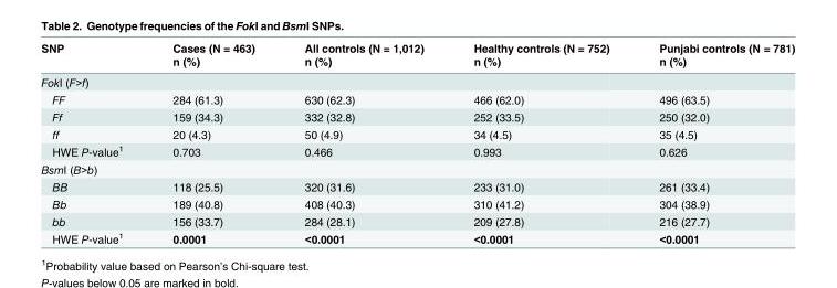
<table><thead><tr><td rowspan="2">SNP</td><td rowspan="2">Cases (N = 463) n (%)</td><td rowspan="2">All controls (N = 1,012) n (%)</td><td rowspan="2">Healthy controls (N = 752) n (%)</td><td rowspan="2">Punjabi controls (N = 781) n (%)</td></tr><tr></tr></thead><tbody><tr><td colspan="5">FokI (F&gt;f)</td></tr><tr><td>FF</td><td>284 (61.3)</td><td>630 (62.3)</td><td>466 (62.0)</td><td>496 (63.5)</td></tr><tr><td>Ff</td><td>159 (34.3)</td><td>332 (32.8)</td><td>252 (33.5)</td><td>250 (32.0)</td></tr><tr><td>ff</td><td>20 (4.3)</td><td>50 (4.9)</td><td>34 (4.5)</td><td>35 (4.5)</td></tr><tr><td>HWE P-value<sup>1</sup></td><td>0.703</td><td>0.466</td><td>0.993</td><td>0.626</td></tr><tr><td colspan="5">BsmI (B&gt;b)</td></tr><tr><td>BB</td><td>118 (25.5)</td><td>320 (31.6)</td><td>233 (31.0)</td><td>261 (33.4)</td></tr><tr><td>Bb</td><td>189 (40.8)</td><td>408 (40.3)</td><td>310 (41.2)</td><td>304 (38.9)</td></tr><tr><td>bb</td><td>156 (33.7)</td><td>284 (28.1)</td><td>209 (27.8)</td><td>216 (27.7)</td></tr><tr><td>HWE P-value<sup>1</sup></td><td>0.0001</td><td>&lt;0.0001</td><td>&lt;0.0001</td><td>&lt;0.0001</td></tr></tbody></table>